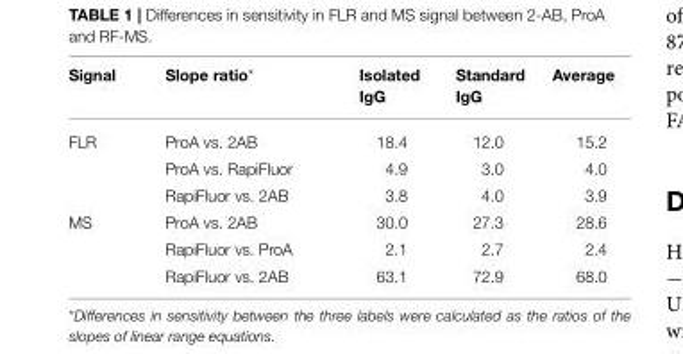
<table><thead><tr><td>Signal</td><td>Slope ratio*</td><td>Isolated IgG</td><td>Standard IgG</td><td>Average</td></tr></thead><tbody><tr><td rowspan="3">FLR</td><td>ProA vs. 2AB</td><td>18.4</td><td>12.0</td><td>15.2</td></tr><tr><td>ProA vs. RapiFluor</td><td>4.9</td><td>3.0</td><td>4.0</td></tr><tr><td>RapiFluor vs. 2AB</td><td>3.8</td><td>4.0</td><td>3.9</td></tr><tr><td rowspan="3">MS</td><td>ProA vs. 2AB</td><td>30.0</td><td>27.3</td><td>28.6</td></tr><tr><td>RapiFluor vs. ProA</td><td>2.1</td><td>2.7</td><td>2.4</td></tr><tr><td>RapiFluor vs. 2AB</td><td>63.1</td><td>72.9</td><td>68.0</td></tr></tbody></table>